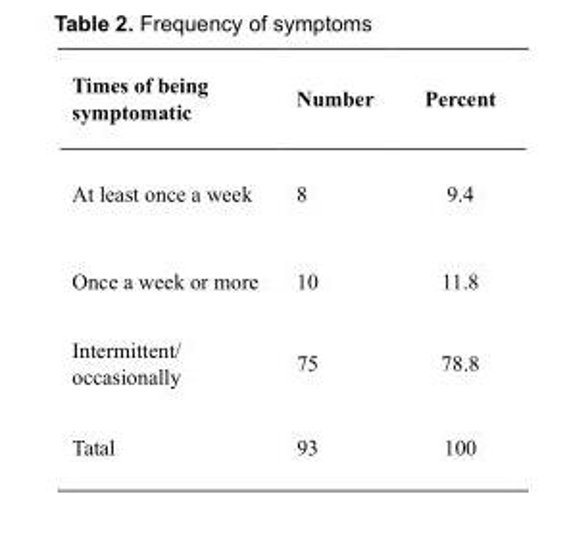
<table><thead><tr><td>Times of being symptomatic</td><td>Number</td><td>Percent</td></tr></thead><tbody><tr><td>At least once a week</td><td>8</td><td>9.4</td></tr><tr><td>Once a week or more</td><td>10</td><td>11.8</td></tr><tr><td>Intermittent/ occasionally</td><td>75</td><td>78.8</td></tr><tr><td>Tatal</td><td>93</td><td>100</td></tr></tbody></table>